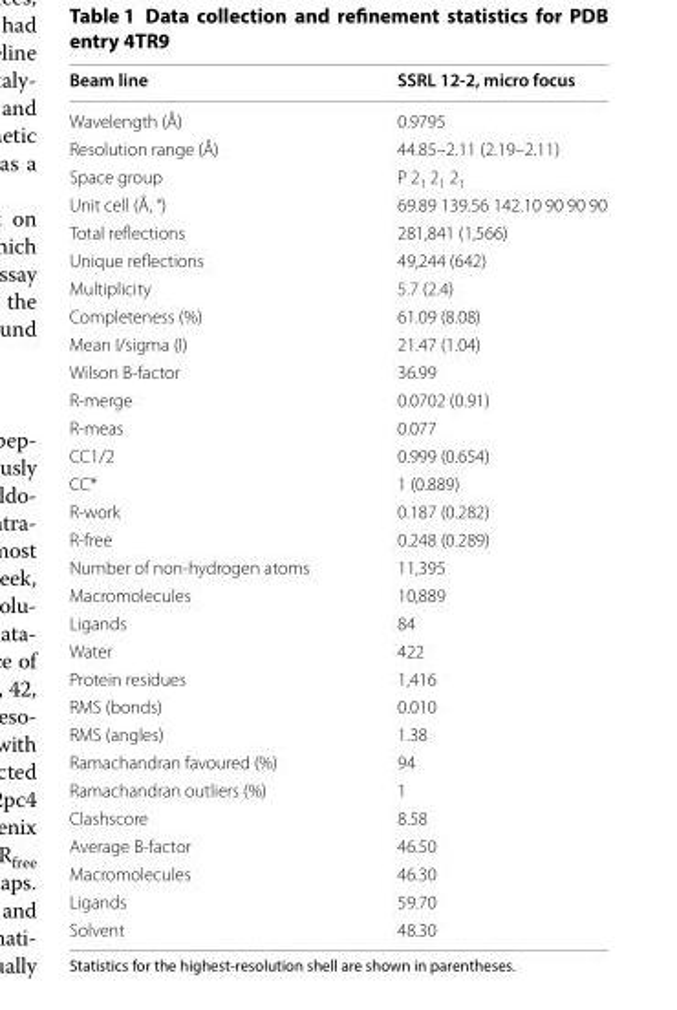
<table><thead><tr><td>Beam line</td><td>SSRL 12‑2, micro focus</td></tr></thead><tbody><tr><td>Wavelength (Å)</td><td>0.9795</td></tr><tr><td>Resolution range (Å)</td><td>44.85–2.11 (2.19–2.11)</td></tr><tr><td>Space group</td><td>P 2<sub>1</sub> 2<sub>1</sub> 2<sub>1</sub></td></tr><tr><td>Unit cell (Å, °)</td><td>69.89 139.56 142.10 90 90 90</td></tr><tr><td>Total reflections</td><td>281,841 (1,566)</td></tr><tr><td>Unique reflections</td><td>49,244 (642)</td></tr><tr><td>Multiplicity</td><td>5.7 (2.4)</td></tr><tr><td>Completeness (%)</td><td>61.09 (8.08)</td></tr><tr><td>Mean I/sigma (I)</td><td>21.47 (1.04)</td></tr><tr><td>Wilson B-factor</td><td>36.99</td></tr><tr><td>R-merge</td><td>0.0702 (0.91)</td></tr><tr><td>R-meas</td><td>0.077</td></tr><tr><td>CC1/2</td><td>0.999 (0.654)</td></tr><tr><td>CC*</td><td>1 (0.889)</td></tr><tr><td>R-work</td><td>0.187 (0.282)</td></tr><tr><td>R-free</td><td>0.248 (0.289)</td></tr><tr><td>Number of non-hydrogen atoms</td><td>11,395</td></tr><tr><td>Macromolecules</td><td>10,889</td></tr><tr><td>Ligands</td><td>84</td></tr><tr><td>Water</td><td>422</td></tr><tr><td>Protein residues</td><td>1,416</td></tr><tr><td>RMS (bonds)</td><td>0.010</td></tr><tr><td>RMS (angles)</td><td>1.38</td></tr><tr><td>Ramachandran favoured (%)</td><td>94</td></tr><tr><td>Ramachandran outliers (%)</td><td>1</td></tr><tr><td>Clashscore</td><td>8.58</td></tr><tr><td>Average B-factor</td><td>46.50</td></tr><tr><td>Macromolecules</td><td>46.30</td></tr><tr><td>Ligands</td><td>59.70</td></tr><tr><td>Solvent</td><td>48.30</td></tr></tbody></table>